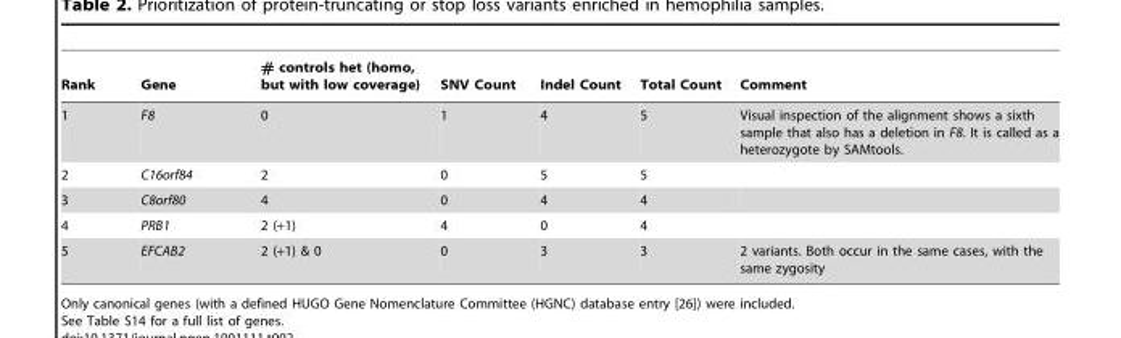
<table><thead><tr><td>Rank</td><td>Gene</td><td># controls het (homo, but with low coverage)</td><td>SNV Count</td><td>Indel Count</td><td>Total Count</td><td>Comment</td></tr></thead><tbody><tr><td>1</td><td>F8</td><td>0</td><td>1</td><td>4</td><td>5</td><td>Visual inspection of the alignment shows a sixth sample that also has a deletion in F8. It is called as a heterozygote by SAMtools.</td></tr><tr><td>2</td><td>C16orf84</td><td>2</td><td>0</td><td>5</td><td>5</td><td></td></tr><tr><td>3</td><td>C8orf80</td><td>4</td><td>0</td><td>4</td><td>4</td><td></td></tr><tr><td>4</td><td>PRB1</td><td>2 (+1)</td><td>4</td><td>0</td><td>4</td><td></td></tr><tr><td>5</td><td>EFCAB2</td><td>2 (+1) &amp; 0</td><td>0</td><td>3</td><td>3</td><td>2 variants. Both occur in the same cases, with the same zygosity</td></tr></tbody></table>